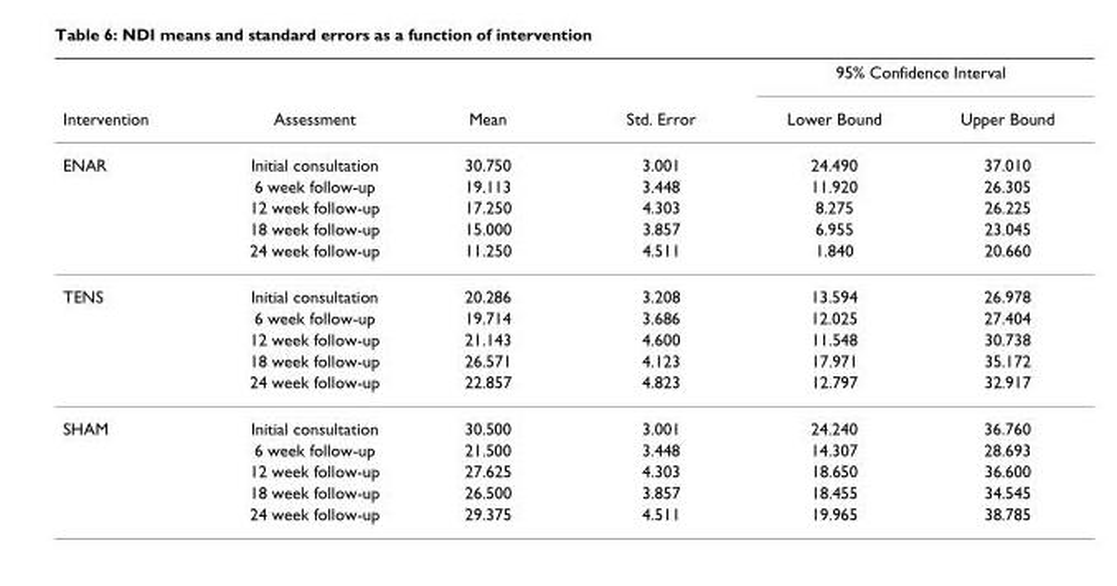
<table><thead><tr><td rowspan="2">Intervention</td><td rowspan="2">Assessment</td><td rowspan="2">Mean</td><td rowspan="2">Std. Error</td><td colspan="2">95% Confidence Interval</td></tr><tr><td>Lower Bound</td><td>Upper Bound</td></tr></thead><tbody><tr><td rowspan="5">ENAR</td><td>Initial consultation</td><td>30.750</td><td>3.001</td><td>24.490</td><td>37.010</td></tr><tr><td>6 week follow-up</td><td>19.113</td><td>3.448</td><td>11.920</td><td>26.305</td></tr><tr><td>12 week follow-up</td><td>17.250</td><td>4.303</td><td>8.275</td><td>26.225</td></tr><tr><td>18 week follow-up</td><td>15.000</td><td>3.857</td><td>6.955</td><td>23.045</td></tr><tr><td>24 week follow-up</td><td>11.250</td><td>4.511</td><td>1.840</td><td>20.660</td></tr><tr><td rowspan="5">TENS</td><td>Initial consultation</td><td>20.286</td><td>3.208</td><td>13.594</td><td>26.978</td></tr><tr><td>6 week follow-up</td><td>19.714</td><td>3.686</td><td>12.025</td><td>27.404</td></tr><tr><td>12 week follow-up</td><td>21.143</td><td>4.600</td><td>11.548</td><td>30.738</td></tr><tr><td>18 week follow-up</td><td>26.571</td><td>4.123</td><td>17.971</td><td>35.172</td></tr><tr><td>24 week follow-up</td><td>22.857</td><td>4.823</td><td>12.797</td><td>32.917</td></tr><tr><td rowspan="5">SHAM</td><td>Initial consultation</td><td>30.500</td><td>3.001</td><td>24.240</td><td>36.760</td></tr><tr><td>6 week follow-up</td><td>21.500</td><td>3.448</td><td>14.307</td><td>28.693</td></tr><tr><td>12 week follow-up</td><td>27.625</td><td>4.303</td><td>18.650</td><td>36.600</td></tr><tr><td>18 week follow-up</td><td>26.500</td><td>3.857</td><td>18.455</td><td>34.545</td></tr><tr><td>24 week follow-up</td><td>29.375</td><td>4.511</td><td>19.965</td><td>38.785</td></tr></tbody></table>